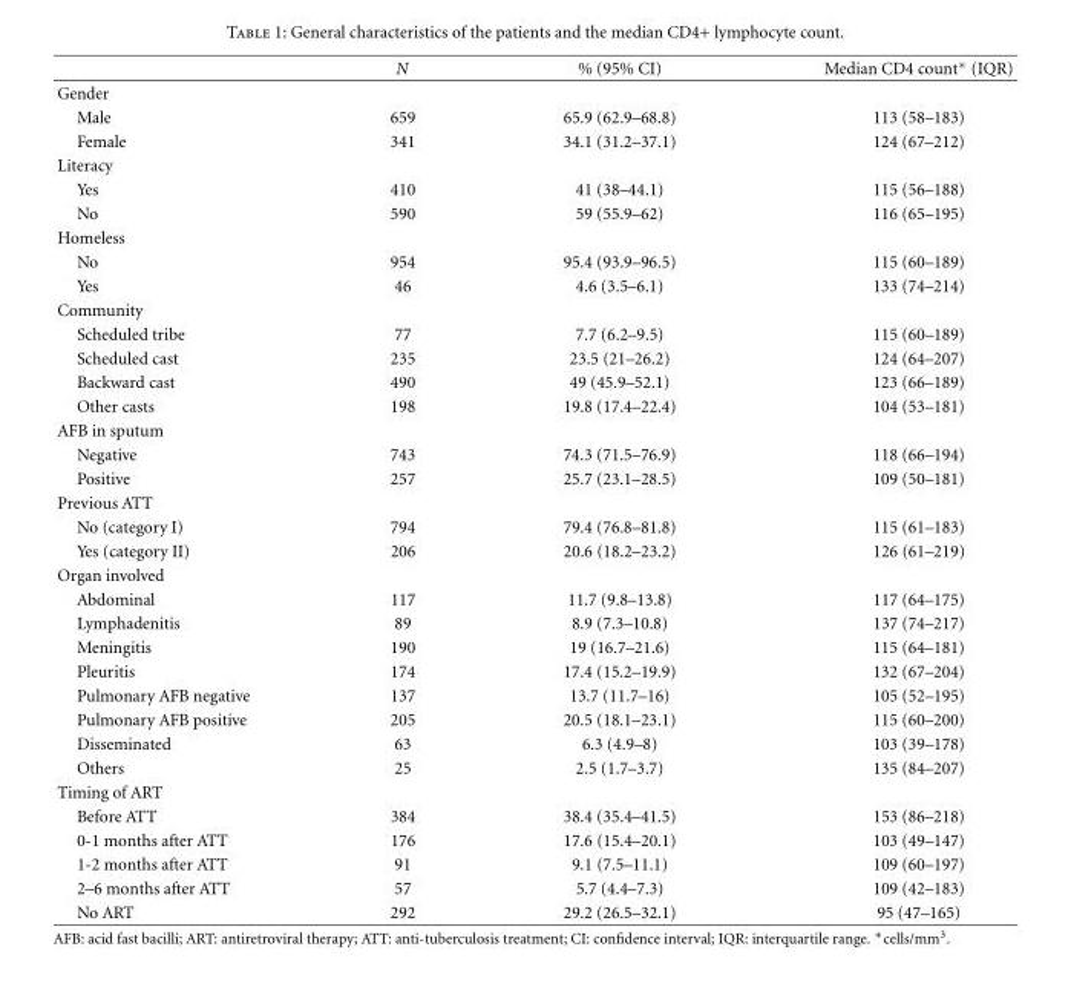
<table><thead><tr><td></td><td>N</td><td>% (95% CI)</td><td>Median CD4 count∗ (IQR)</td></tr></thead><tbody><tr><td colspan="4">Gender</td></tr><tr><td>Male</td><td>659</td><td>65.9 (62.9–68.8)</td><td>113 (58–183)</td></tr><tr><td>Female</td><td>341</td><td>34.1 (31.2–37.1)</td><td>124 (67–212)</td></tr><tr><td colspan="4">Literacy</td></tr><tr><td>Yes</td><td>410</td><td>41 (38–44.1)</td><td>115 (56–188)</td></tr><tr><td>No</td><td>590</td><td>59 (55.9–62)</td><td>116 (65–195)</td></tr><tr><td colspan="4">Homeless</td></tr><tr><td>No</td><td>954</td><td>95.4 (93.9–96.5)</td><td>115 (60–189)</td></tr><tr><td>Yes</td><td>46</td><td>4.6 (3.5–6.1)</td><td>133 (74–214)</td></tr><tr><td colspan="4">Community</td></tr><tr><td>Scheduled tribe</td><td>77</td><td>7.7 (6.2–9.5)</td><td>115 (60–189)</td></tr><tr><td>Scheduled cast</td><td>235</td><td>23.5 (21–26.2)</td><td>124 (64–207)</td></tr><tr><td>Backward cast</td><td>490</td><td>49 (45.9–52.1)</td><td>123 (66–189)</td></tr><tr><td>Other casts</td><td>198</td><td>19.8 (17.4–22.4)</td><td>104 (53–181)</td></tr><tr><td colspan="4">AFB in sputum</td></tr><tr><td>Negative</td><td>743</td><td>74.3 (71.5–76.9)</td><td>118 (66–194)</td></tr><tr><td>Positive</td><td>257</td><td>25.7 (23.1–28.5)</td><td>109 (50–181)</td></tr><tr><td colspan="4">Previous ATT</td></tr><tr><td>No (category I)</td><td>794</td><td>79.4 (76.8–81.8)</td><td>115 (61–183)</td></tr><tr><td>Yes (category II)</td><td>206</td><td>20.6 (18.2–23.2)</td><td>126 (61–219)</td></tr><tr><td colspan="4">Organ involved</td></tr><tr><td>Abdominal</td><td>117</td><td>11.7 (9.8–13.8)</td><td>117 (64–175)</td></tr><tr><td>Lymphadenitis</td><td>89</td><td>8.9 (7.3–10.8)</td><td>137 (74–217)</td></tr><tr><td>Meningitis</td><td>190</td><td>19 (16.7–21.6)</td><td>115 (64–181)</td></tr><tr><td>Pleuritis</td><td>174</td><td>17.4 (15.2–19.9)</td><td>132 (67–204)</td></tr><tr><td>Pulmonary AFB negative</td><td>137</td><td>13.7 (11.7–16)</td><td>105 (52–195)</td></tr><tr><td>Pulmonary AFB positive</td><td>205</td><td>20.5 (18.1–23.1)</td><td>115 (60–200)</td></tr><tr><td>Disseminated</td><td>63</td><td>6.3 (4.9–8)</td><td>103 (39–178)</td></tr><tr><td>Others</td><td>25</td><td>2.5 (1.7–3.7)</td><td>135 (84–207)</td></tr><tr><td colspan="4">Timing of ART</td></tr><tr><td>Before ATT</td><td>384</td><td>38.4 (35.4–41.5)</td><td>153 (86–218)</td></tr><tr><td>0-1 months after ATT</td><td>176</td><td>17.6 (15.4–20.1)</td><td>103 (49–147)</td></tr><tr><td>1-2 months after ATT</td><td>91</td><td>9.1 (7.5–11.1)</td><td>109 (60–197)</td></tr><tr><td>2–6 months after ATT</td><td>57</td><td>5.7 (4.4–7.3)</td><td>109 (42–183)</td></tr><tr><td>No ART</td><td>292</td><td>29.2 (26.5–32.1)</td><td>95 (47–165)</td></tr></tbody></table>